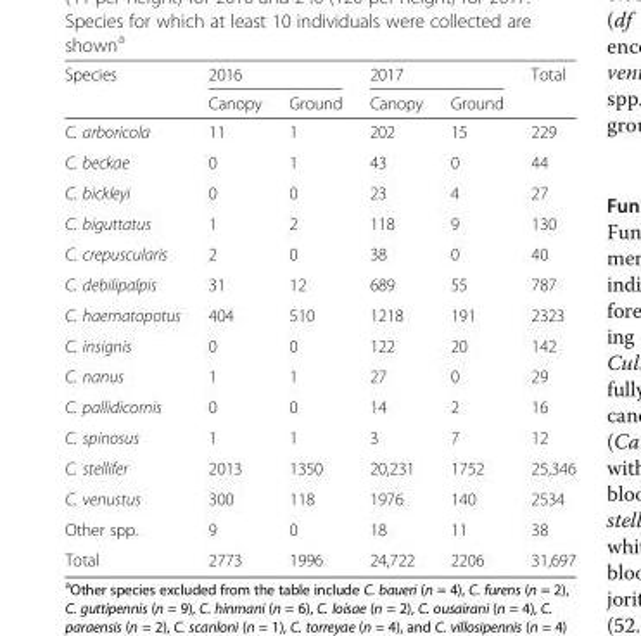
<table><thead><tr><td rowspan="2">Species</td><td colspan="2">2016</td><td colspan="2">2017</td><td rowspan="2">Total</td></tr><tr><td>Canopy</td><td>Ground</td><td>Canopy</td><td>Ground</td></tr></thead><tbody><tr><td>C. arboricola</td><td>11</td><td>1</td><td>202</td><td>15</td><td>229</td></tr><tr><td>C. beckae</td><td>0</td><td>1</td><td>43</td><td>0</td><td>44</td></tr><tr><td>C. bickleyi</td><td>0</td><td>0</td><td>23</td><td>4</td><td>27</td></tr><tr><td>C. biguttatus</td><td>1</td><td>2</td><td>118</td><td>9</td><td>130</td></tr><tr><td>C. crepuscularis</td><td>2</td><td>0</td><td>38</td><td>0</td><td>40</td></tr><tr><td>C. debilipalpis</td><td>31</td><td>12</td><td>689</td><td>55</td><td>787</td></tr><tr><td>C. haematopotus</td><td>404</td><td>510</td><td>1218</td><td>191</td><td>2323</td></tr><tr><td>C. insignis</td><td>0</td><td>0</td><td>122</td><td>20</td><td>142</td></tr><tr><td>C. nanus</td><td>1</td><td>1</td><td>27</td><td>0</td><td>29</td></tr><tr><td>C. pallidicornis</td><td>0</td><td>0</td><td>14</td><td>2</td><td>16</td></tr><tr><td>C. spinosus</td><td>1</td><td>1</td><td>3</td><td>7</td><td>12</td></tr><tr><td>C. stellifer</td><td>2013</td><td>1350</td><td>20,231</td><td>1752</td><td>25,346</td></tr><tr><td>C. venustus</td><td>300</td><td>118</td><td>1976</td><td>140</td><td>2534</td></tr><tr><td>Other spp.</td><td>9</td><td>0</td><td>18</td><td>11</td><td>38</td></tr><tr><td>Total</td><td>2773</td><td>1996</td><td>24,722</td><td>2206</td><td>31,697</td></tr></tbody></table>